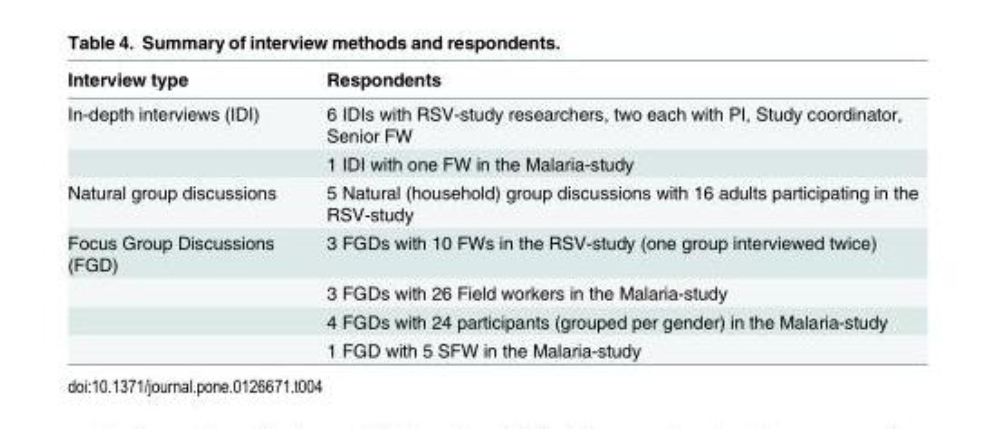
<table><thead><tr><td>Interview type</td><td>Respondents</td></tr></thead><tbody><tr><td rowspan="2">In-depth interviews (IDI)</td><td>6 IDIs with RSV-study researchers, two each with PI, Study coordinator, Senior FW</td></tr><tr><td>1 IDI with one FW in the Malaria-study</td></tr><tr><td>Natural group discussions</td><td>5 Natural (household) group discussions with 16 adults participating in the RSV-study</td></tr><tr><td rowspan="4">Focus Group Discussions (FGD)</td><td>3 FGDs with 10 FWs in the RSV-study (one group interviewed twice)</td></tr><tr><td>3 FGDs with 26 Field workers in the Malaria-study</td></tr><tr><td>4 FGDs with 24 participants (grouped per gender) in the Malaria-study</td></tr><tr><td>1 FGD with 5 SFW in the Malaria-study</td></tr></tbody></table>